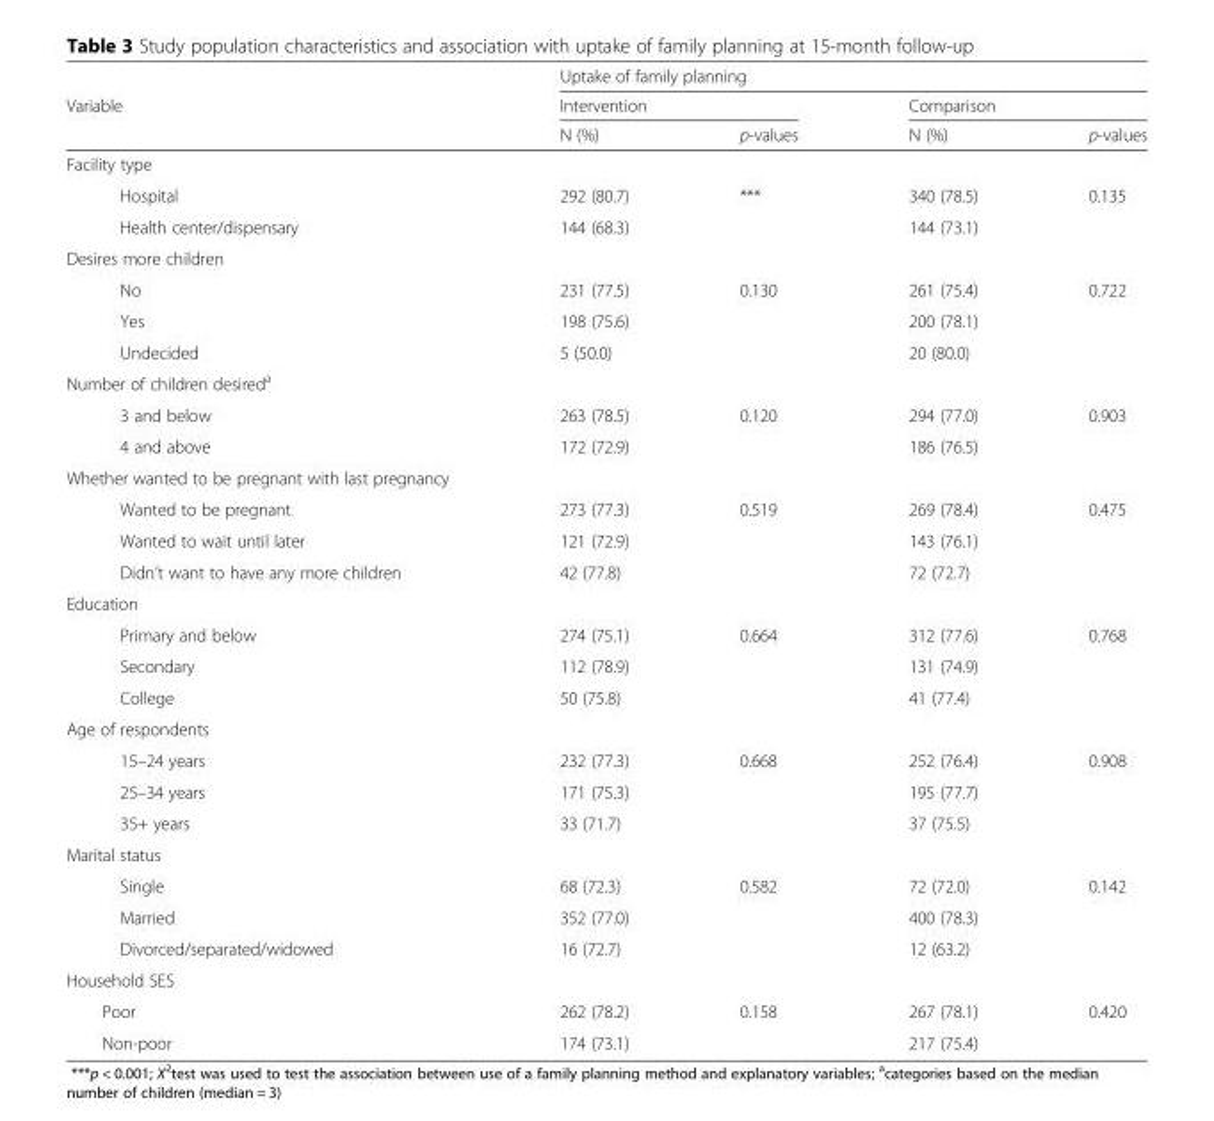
<table><thead><tr><td rowspan="3">Variable</td><td colspan="4">Uptake of family planning</td></tr><tr><td colspan="2">Intervention</td><td colspan="2">Comparison</td></tr><tr><td>N (%)</td><td>p-values</td><td>N (%)</td><td>p-values</td></tr></thead><tbody><tr><td colspan="5">Facility type</td></tr><tr><td>Hospital</td><td>292 (80.7)</td><td>***</td><td>340 (78.5)</td><td rowspan="2">0.135</td></tr><tr><td>Health center/dispensary</td><td>144 (68.3)</td><td></td><td>144 (73.1)</td></tr><tr><td colspan="5">Desires more children</td></tr><tr><td>No</td><td>231 (77.5)</td><td rowspan="2">0.130</td><td>261 (75.4)</td><td rowspan="2">0.722</td></tr><tr><td>Yes</td><td>198 (75.6)</td><td>200 (78.1)</td></tr><tr><td>Undecided</td><td>5 (50.0)</td><td></td><td>20 (80.0)</td><td></td></tr><tr><td colspan="5">Number of children desired<sup>a</sup></td></tr><tr><td>3 and below</td><td>263 (78.5)</td><td>0.120</td><td>294 (77.0)</td><td>0.903</td></tr><tr><td>4 and above</td><td>172 (72.9)</td><td></td><td>186 (76.5)</td><td></td></tr><tr><td colspan="5">Whether wanted to be pregnant with last pregnancy</td></tr><tr><td>Wanted to be pregnant</td><td>273 (77.3)</td><td>0.519</td><td>269 (78.4)</td><td>0.475</td></tr><tr><td>Wanted to wait until later</td><td>121 (72.9)</td><td></td><td>143 (76.1)</td><td></td></tr><tr><td>Didn’t want to have any more children</td><td>42 (77.8)</td><td></td><td>72 (72.7)</td><td></td></tr><tr><td colspan="5">Education</td></tr><tr><td>Primary and below</td><td>274 (75.1)</td><td rowspan="3">0.664</td><td>312 (77.6)</td><td rowspan="3">0.768</td></tr><tr><td>Secondary</td><td>112 (78.9)</td><td>131 (74.9)</td></tr><tr><td>College</td><td>50 (75.8)</td><td>41 (77.4)</td></tr><tr><td colspan="5">Age of respondents</td></tr><tr><td>15–24 years</td><td>232 (77.3)</td><td rowspan="3">0.668</td><td>252 (76.4)</td><td rowspan="3">0.908</td></tr><tr><td>25–34 years</td><td>171 (75.3)</td><td>195 (77.7)</td></tr><tr><td>35+ years</td><td>33 (71.7)</td><td>37 (75.5)</td></tr><tr><td colspan="5">Marital status</td></tr><tr><td>Single</td><td>68 (72.3)</td><td rowspan="3">0.582</td><td>72 (72.0)</td><td rowspan="3">0.142</td></tr><tr><td>Married</td><td>352 (77.0)</td><td>400 (78.3)</td></tr><tr><td>Divorced/separated/widowed</td><td>16 (72.7)</td><td>12 (63.2)</td></tr><tr><td colspan="5">Household SES</td></tr><tr><td>Poor</td><td>262 (78.2)</td><td>0.158</td><td>267 (78.1)</td><td rowspan="2">0.420</td></tr><tr><td>Non-poor</td><td>174 (73.1)</td><td></td><td>217 (75.4)</td></tr></tbody></table>